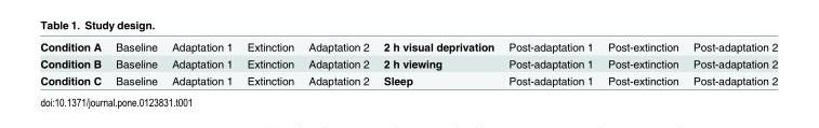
<table><tbody><tr><td>Condition A</td><td>Baseline</td><td>Adaptation 1</td><td>Extinction</td><td>Adaptation 2</td><td>2 h visual deprivation</td><td>Post-adaptation 1</td><td>Post-extinction</td><td>Post-adaptation 2</td></tr><tr><td>Condition B</td><td>Baseline</td><td>Adaptation 1</td><td>Extinction</td><td>Adaptation 2</td><td>2 h viewing</td><td>Post-adaptation 1</td><td>Post-extinction</td><td>Post-adaptation 2</td></tr><tr><td>Condition C</td><td>Baseline</td><td>Adaptation 1</td><td>Extinction</td><td>Adaptation 2</td><td>Sleep</td><td>Post-adaptation 1</td><td>Post-extinction</td><td>Post-adaptation 2</td></tr></tbody></table>